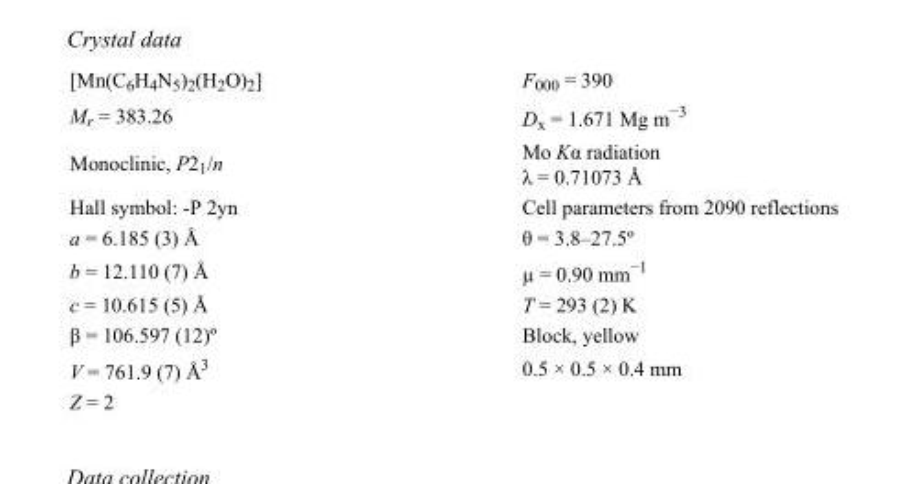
<table><tbody><tr><td>[Mn(C<sub>6</sub>H<sub>4</sub>N<sub>5</sub>)<sub>2</sub>(H<sub>2</sub>O)<sub>2</sub>]</td><td>F<sub>000</sub> = 390</td></tr><tr><td>M<sub>r</sub> = 383.26</td><td>D<sub>x</sub> = 1.671 Mg m<sup>−3</sup></td></tr><tr><td>Monoclinic, P2<sub>1</sub>/n</td><td>Mo Kα radiation λ = 0.71073 Å</td></tr><tr><td>Hall symbol: -P 2yn</td><td>Cell parameters from 2090 reflections</td></tr><tr><td>a = 6.185 (3) Å</td><td>θ = 3.8–27.5º</td></tr><tr><td>b = 12.110 (7) Å</td><td>µ = 0.90 mm<sup>−1</sup></td></tr><tr><td>c = 10.615 (5) Å</td><td>T = 293 (2) K</td></tr><tr><td>β = 106.597 (12)º</td><td>Block, yellow</td></tr><tr><td>V = 761.9 (7) Å<sup>3</sup></td><td>0.5 × 0.5 × 0.4 mm</td></tr><tr><td>Z = 2</td><td></td></tr></tbody></table>